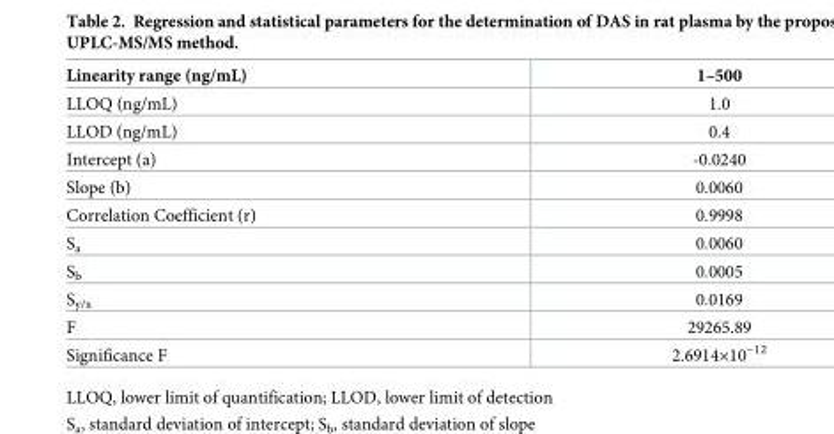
<table><thead><tr><td>Linearity range (ng/mL)</td><td>1–500</td></tr></thead><tbody><tr><td>LLOQ (ng/mL)</td><td>1.0</td></tr><tr><td>LLOD (ng/mL)</td><td>0.4</td></tr><tr><td>Intercept (a)</td><td>-0.0240</td></tr><tr><td>Slope (b)</td><td>0.0060</td></tr><tr><td>Correlation Coefficient (r)</td><td>0.9998</td></tr><tr><td>S<sub>a</sub></td><td>0.0060</td></tr><tr><td>S<sub>b</sub></td><td>0.0005</td></tr><tr><td>S<sub>y/x</sub></td><td>0.0169</td></tr><tr><td>F</td><td>29265.89</td></tr><tr><td>Significance F</td><td>2.6914×10<sup>−12</sup></td></tr></tbody></table>